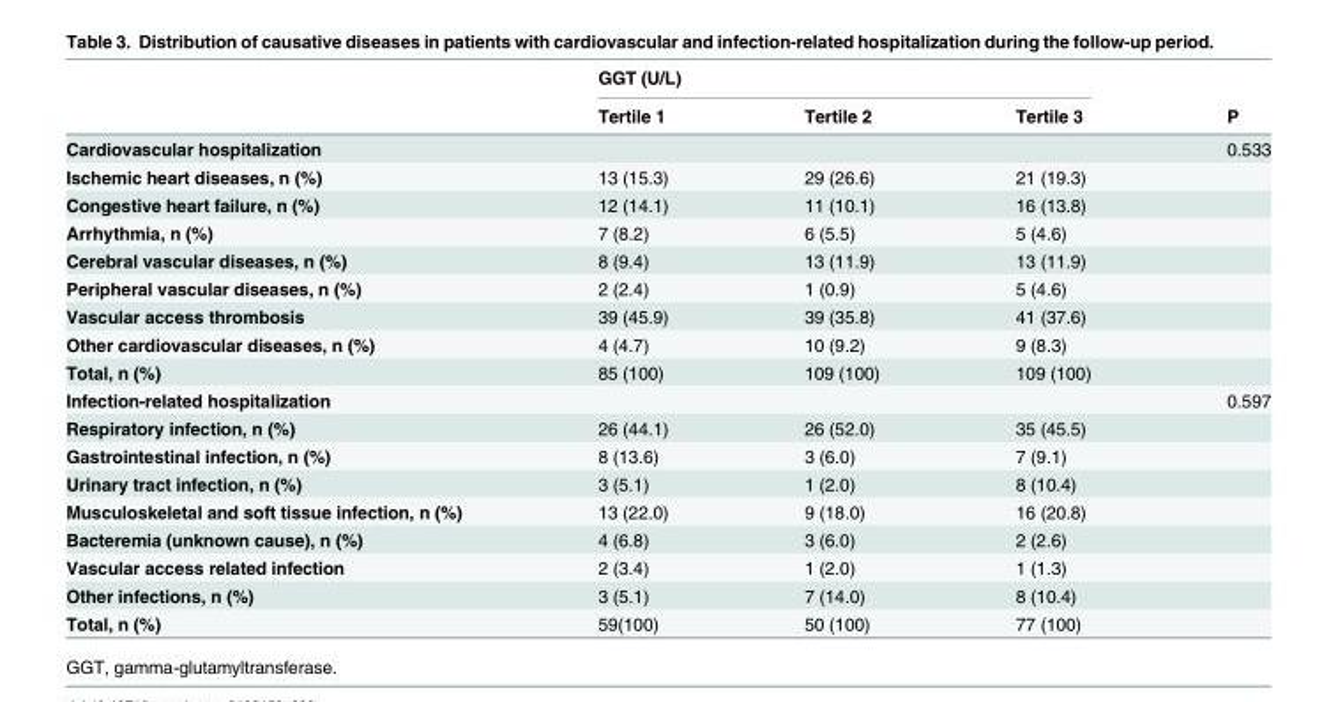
<table><thead><tr><td rowspan="2"></td><td colspan="3">GGT (U/L)</td><td rowspan="2">P</td></tr><tr><td>Tertile 1</td><td>Tertile 2</td><td>Tertile 3</td></tr></thead><tbody><tr><td>Cardiovascular hospitalization</td><td></td><td></td><td></td><td>0.533</td></tr><tr><td>Ischemic heart diseases, n (%)</td><td>13 (15.3)</td><td>29 (26.6)</td><td>21 (19.3)</td><td></td></tr><tr><td>Congestive heart failure, n (%)</td><td>12 (14.1)</td><td>11 (10.1)</td><td>16 (13.8)</td><td></td></tr><tr><td>Arrhythmia, n (%)</td><td>7 (8.2)</td><td>6 (5.5)</td><td>5 (4.6)</td><td></td></tr><tr><td>Cerebral vascular diseases, n (%)</td><td>8 (9.4)</td><td>13 (11.9)</td><td>13 (11.9)</td><td></td></tr><tr><td>Peripheral vascular diseases, n (%)</td><td>2 (2.4)</td><td>1 (0.9)</td><td>5 (4.6)</td><td></td></tr><tr><td>Vascular access thrombosis</td><td>39 (45.9)</td><td>39 (35.8)</td><td>41 (37.6)</td><td></td></tr><tr><td>Other cardiovascular diseases, n (%)</td><td>4 (4.7)</td><td>10 (9.2)</td><td>9 (8.3)</td><td></td></tr><tr><td>Total, n (%)</td><td>85 (100)</td><td>109 (100)</td><td>109 (100)</td><td></td></tr><tr><td>Infection-related hospitalization</td><td></td><td></td><td></td><td>0.597</td></tr><tr><td>Respiratory infection, n (%)</td><td>26 (44.1)</td><td>26 (52.0)</td><td>35 (45.5)</td><td></td></tr><tr><td>Gastrointestinal infection, n (%)</td><td>8 (13.6)</td><td>3 (6.0)</td><td>7 (9.1)</td><td></td></tr><tr><td>Urinary tract infection, n (%)</td><td>3 (5.1)</td><td>1 (2.0)</td><td>8 (10.4)</td><td></td></tr><tr><td>Musculoskeletal and soft tissue infection, n (%)</td><td>13 (22.0)</td><td>9 (18.0)</td><td>16 (20.8)</td><td></td></tr><tr><td>Bacteremia (unknown cause), n (%)</td><td>4 (6.8)</td><td>3 (6.0)</td><td>2 (2.6)</td><td></td></tr><tr><td>Vascular access related infection</td><td>2 (3.4)</td><td>1 (2.0)</td><td>1 (1.3)</td><td></td></tr><tr><td>Other infections, n (%)</td><td>3 (5.1)</td><td>7 (14.0)</td><td>8 (10.4)</td><td></td></tr><tr><td>Total, n (%)</td><td>59(100)</td><td>50 (100)</td><td>77 (100)</td><td></td></tr></tbody></table>